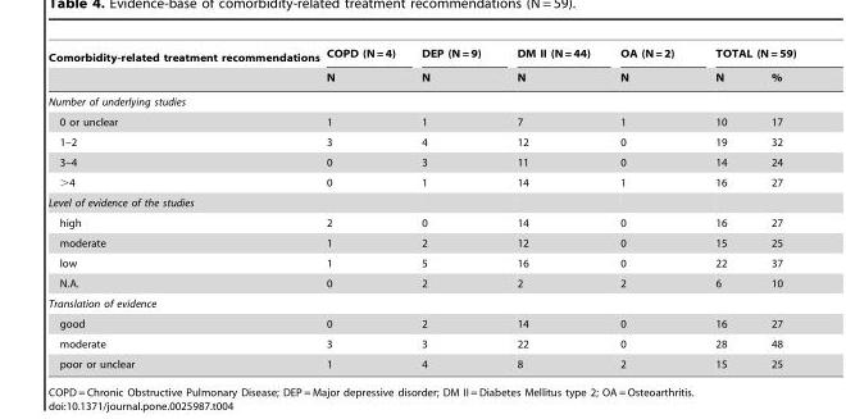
<table><thead><tr><td rowspan="2">Comorbidity-related treatment recommendations</td><td rowspan="2">COPD (N = 4) N</td><td rowspan="2">DEP (N = 9) N</td><td rowspan="2">DM II (N = 44) N</td><td rowspan="2">OA (N = 2) N</td><td colspan="2">TOTAL (N = 59)</td></tr><tr><td>N</td><td>%</td></tr></thead><tbody><tr><td colspan="7">Number of underlying studies</td></tr><tr><td>0 or unclear</td><td>1</td><td>1</td><td>7</td><td>1</td><td>10</td><td>17</td></tr><tr><td>1–2</td><td>3</td><td>4</td><td>12</td><td>0</td><td>19</td><td>32</td></tr><tr><td>3–4</td><td>0</td><td>3</td><td>11</td><td>0</td><td>14</td><td>24</td></tr><tr><td>&gt;4</td><td>0</td><td>1</td><td>14</td><td>1</td><td>16</td><td>27</td></tr><tr><td colspan="7">Level of evidence of the studies</td></tr><tr><td>high</td><td>2</td><td>0</td><td>14</td><td>0</td><td>16</td><td>27</td></tr><tr><td>moderate</td><td>1</td><td>2</td><td>12</td><td>0</td><td>15</td><td>25</td></tr><tr><td>low</td><td>1</td><td>5</td><td>16</td><td>0</td><td>22</td><td>37</td></tr><tr><td>N.A.</td><td>0</td><td>2</td><td>2</td><td>2</td><td>6</td><td>10</td></tr><tr><td colspan="7">Translation of evidence</td></tr><tr><td>good</td><td>0</td><td>2</td><td>14</td><td>0</td><td>16</td><td>27</td></tr><tr><td>moderate</td><td>3</td><td>3</td><td>22</td><td>0</td><td>28</td><td>48</td></tr><tr><td>poor or unclear</td><td>1</td><td>4</td><td>8</td><td>2</td><td>15</td><td>25</td></tr></tbody></table>